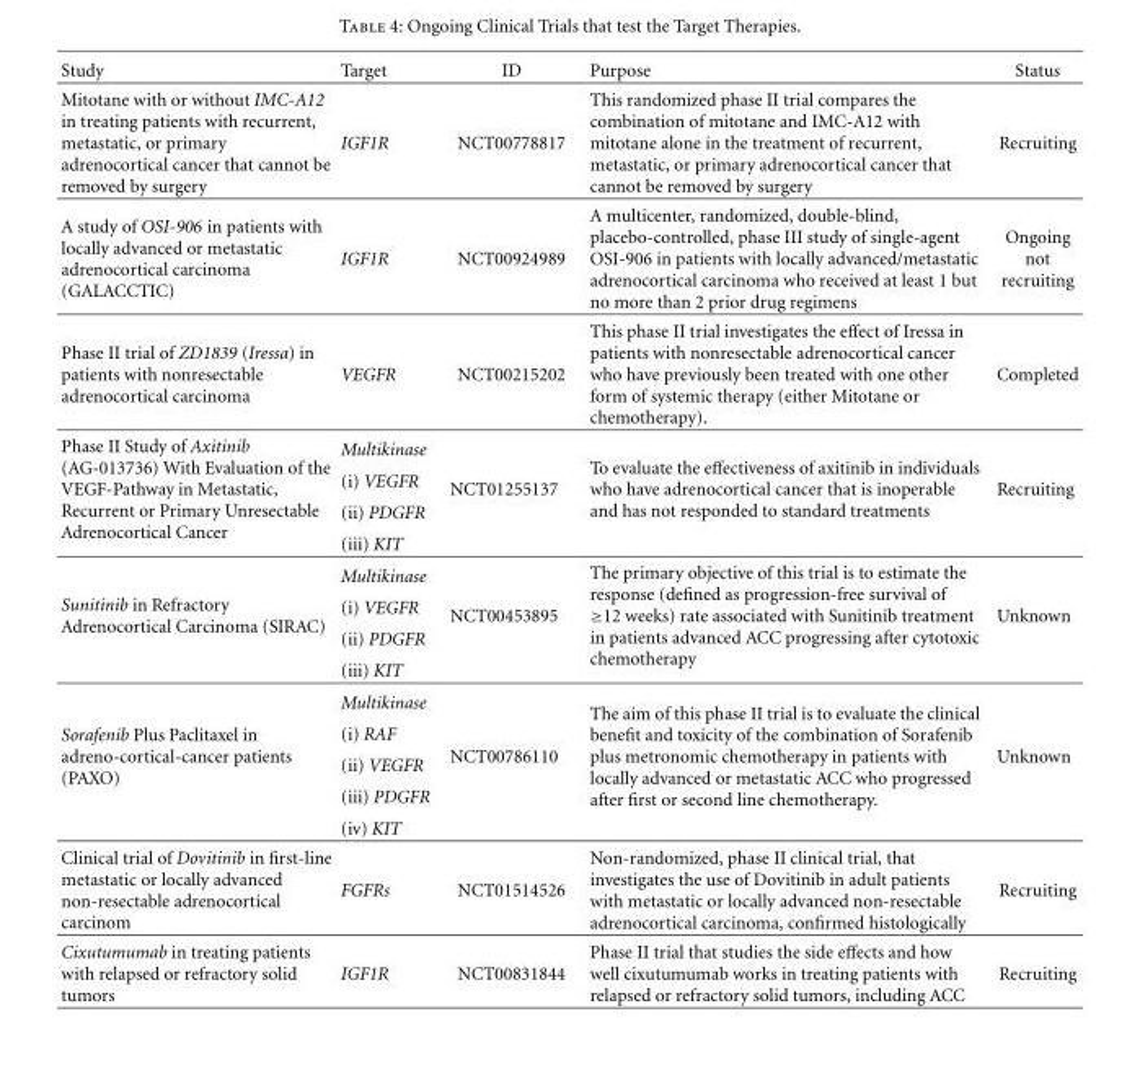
<table><thead><tr><td>Study</td><td>Target</td><td>ID</td><td>Purpose</td><td>Status</td></tr></thead><tbody><tr><td>Mitotane with or without IMC-A12 in treating patients with recurrent, metastatic, or primary adrenocortical cancer that cannot be removed by surgery</td><td>IGF1R</td><td>NCT00778817</td><td>This randomized phase II trial compares the combination of mitotane and IMC-A12 with mitotane alone in the treatment of recurrent, metastatic, or primary adrenocortical cancer that cannot be removed by surgery</td><td>Recruiting</td></tr><tr><td>A study of OSI-906 in patients with locally advanced or metastatic adrenocortical carcinoma (GALACCTIC)</td><td>IGF1R</td><td>NCT00924989</td><td>A multicenter, randomized, double-blind, placebo-controlled, phase III study of single-agent OSI-906 in patients with locally advanced/metastatic adrenocortical carcinoma who received at least 1 but no more than 2 prior drug regimens</td><td>Ongoing not recruiting</td></tr><tr><td>Phase II trial of ZD1839 (Iressa) in patients with nonresectable adrenocortical carcinoma</td><td>VEGFR</td><td>NCT00215202</td><td>This phase II trial investigates the effect of Iressa in patients with nonresectable adrenocortical cancer who have previously been treated with one other form of systemic therapy (either Mitotane or chemotherapy).</td><td>Completed</td></tr><tr><td rowspan="4">Phase II Study of Axitinib (AG-013736) With Evaluation of the VEGF-Pathway in Metastatic, Recurrent or Primary Unresectable Adrenocortical Cancer</td><td>Multikinase</td><td rowspan="4">NCT01255137</td><td rowspan="4">To evaluate the effectiveness of axitinib in individuals who have adrenocortical cancer that is inoperable and has not responded to standard treatments</td><td rowspan="4">Recruiting</td></tr><tr><td>(i) VEGFR</td></tr><tr><td>(ii) PDGFR</td></tr><tr><td>(iii) KIT</td></tr><tr><td rowspan="4">Sunitinib in Refractory Adrenocortical Carcinoma (SIRAC)</td><td>Multikinase</td><td rowspan="4">NCT00453895</td><td rowspan="4">The primary objective of this trial is to estimate the response (defined as progression-free survival of ≥12 weeks) rate associated with Sunitinib treatment in patients advanced ACC progressing after cytotoxic chemotherapy</td><td rowspan="4">Unknown</td></tr><tr><td>(i) VEGFR</td></tr><tr><td>(ii) PDGFR</td></tr><tr><td>(iii) KIT</td></tr><tr><td rowspan="5">Sorafenib Plus Paclitaxel in adreno-cortical-cancer patients (PAXO)</td><td>Multikinase</td><td rowspan="5">NCT00786110</td><td rowspan="5">The aim of this phase II trial is to evaluate the clinical benefit and toxicity of the combination of Sorafenib plus metronomic chemotherapy in patients with locally advanced or metastatic ACC who progressed after first or second line chemotherapy.</td><td rowspan="5">Unknown</td></tr><tr><td>(i) RAF</td></tr><tr><td>(ii) VEGFR</td></tr><tr><td>(iii) PDGFR</td></tr><tr><td>(iv) KIT</td></tr><tr><td>Clinical trial of Dovitinib in first-line metastatic or locally advanced non-resectable adrenocortical carcinom</td><td>FGFRs</td><td>NCT01514526</td><td>Non-randomized, phase II clinical trial, that investigates the use of Dovitinib in adult patients with metastatic or locally advanced non-resectable adrenocortical carcinoma, confirmed histologically</td><td>Recruiting</td></tr><tr><td>Cixutumumab in treating patients with relapsed or refractory solid tumors</td><td>IGF1R</td><td>NCT00831844</td><td>Phase II trial that studies the side effects and how well cixutumumab works in treating patients with relapsed or refractory solid tumors, including ACC</td><td>Recruiting</td></tr></tbody></table>